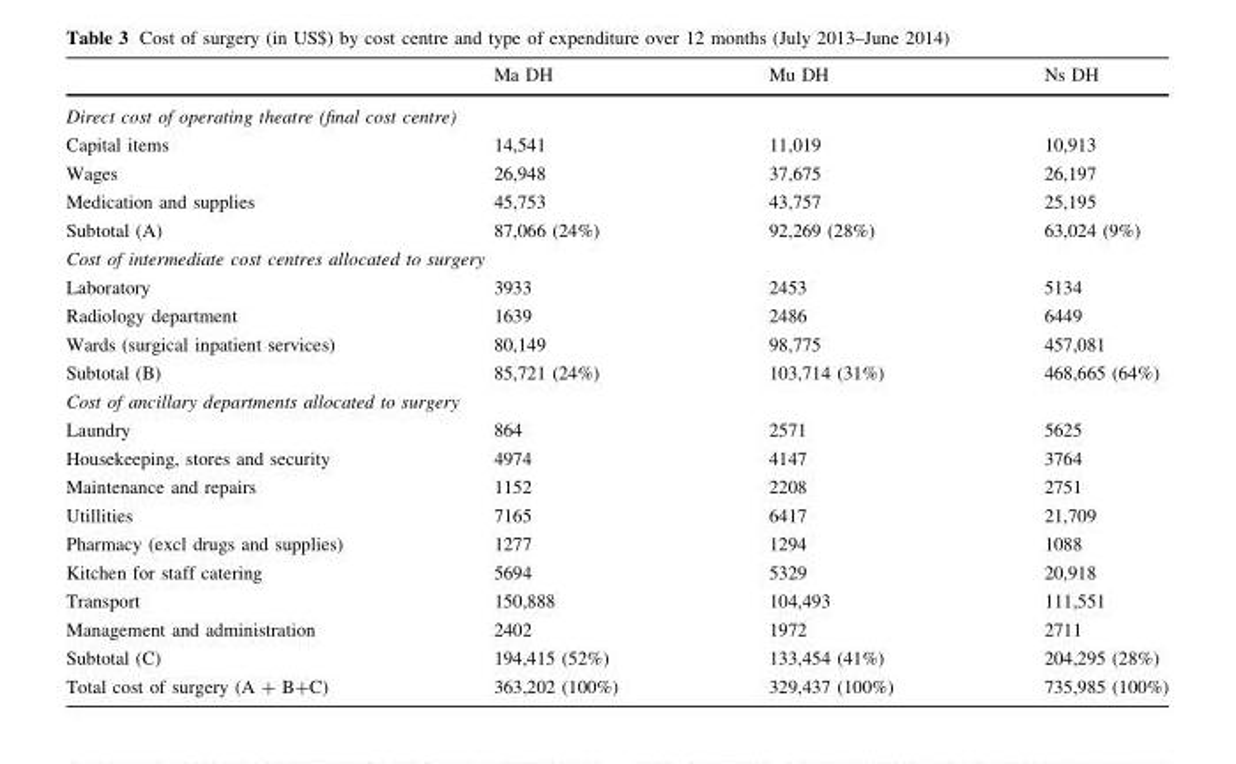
<table><thead><tr><td></td><td>Ma DH</td><td>Mu DH</td><td>Ns DH</td></tr></thead><tbody><tr><td colspan="4">Direct cost of operating theatre (final cost centre)</td></tr><tr><td>Capital items</td><td>14,541</td><td>11,019</td><td>10,913</td></tr><tr><td>Wages</td><td>26,948</td><td>37,675</td><td>26,197</td></tr><tr><td>Medication and supplies</td><td>45,753</td><td>43,757</td><td>25,195</td></tr><tr><td>Subtotal (A)</td><td>87,066 (24%)</td><td>92,269 (28%)</td><td>63,024 (9%)</td></tr><tr><td colspan="4">Cost of intermediate cost centres allocated to surgery</td></tr><tr><td>Laboratory</td><td>3933</td><td>2453</td><td>5134</td></tr><tr><td>Radiology department</td><td>1639</td><td>2486</td><td>6449</td></tr><tr><td>Wards (surgical inpatient services)</td><td>80,149</td><td>98,775</td><td>457,081</td></tr><tr><td>Subtotal (B)</td><td>85,721 (24%)</td><td>103,714 (31%)</td><td>468,665 (64%)</td></tr><tr><td colspan="4">Cost of ancillary departments allocated to surgery</td></tr><tr><td>Laundry</td><td>864</td><td>2571</td><td>5625</td></tr><tr><td>Housekeeping, stores and security</td><td>4974</td><td>4147</td><td>3764</td></tr><tr><td>Maintenance and repairs</td><td>1152</td><td>2208</td><td>2751</td></tr><tr><td>Utillities</td><td>7165</td><td>6417</td><td>21,709</td></tr><tr><td>Pharmacy (excl drugs and supplies)</td><td>1277</td><td>1294</td><td>1088</td></tr><tr><td>Kitchen for staff catering</td><td>5694</td><td>5329</td><td>20,918</td></tr><tr><td>Transport</td><td>150,888</td><td>104,493</td><td>111,551</td></tr><tr><td>Management and administration</td><td>2402</td><td>1972</td><td>2711</td></tr><tr><td>Subtotal (C)</td><td>194,415 (52%)</td><td>133,454 (41%)</td><td>204,295 (28%)</td></tr><tr><td>Total cost of surgery (A + B+C)</td><td>363,202 (100%)</td><td>329,437 (100%)</td><td>735,985 (100%)</td></tr></tbody></table>